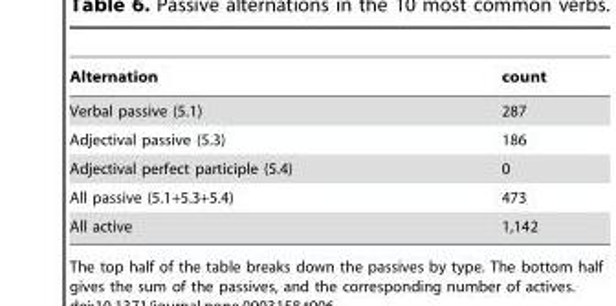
<table><thead><tr><td>Alternation</td><td>count</td></tr></thead><tbody><tr><td>Verbal passive (5.1)</td><td>287</td></tr><tr><td>Adjectival passive (5.3)</td><td>186</td></tr><tr><td>Adjectival perfect participle (5.4)</td><td>0</td></tr><tr><td>All passive (5.1+5.3+5.4)</td><td>473</td></tr><tr><td>All active</td><td>1,142</td></tr></tbody></table>